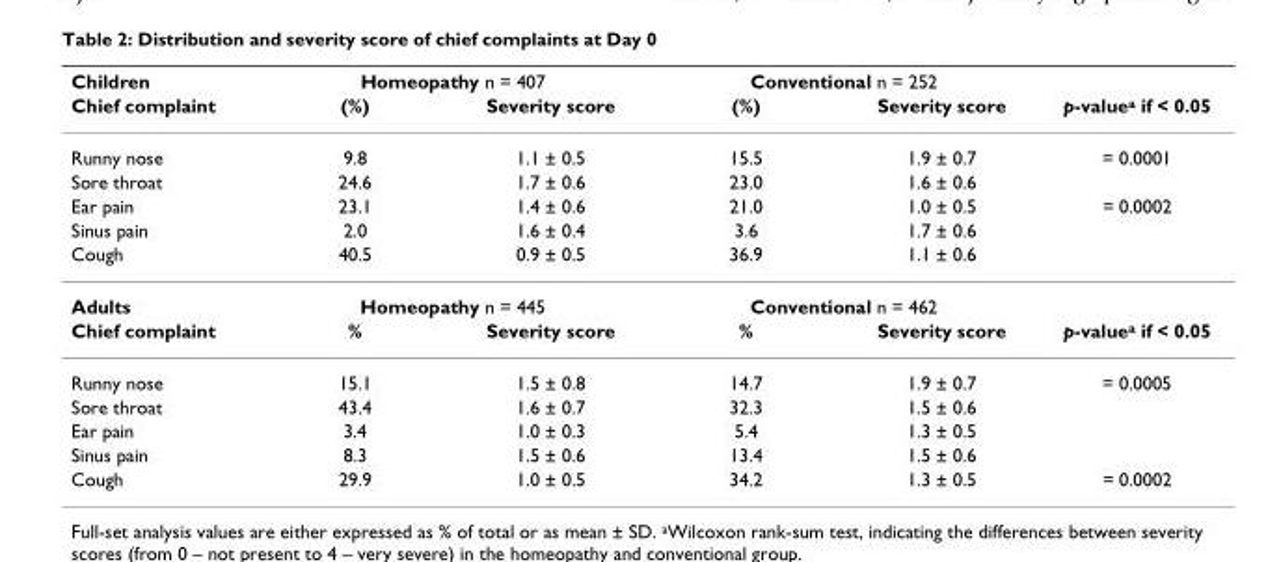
<table><thead><tr><td rowspan="2">Children Chief complaint</td><td colspan="2">Homeopathy n = 407</td><td colspan="2">Conventional n = 252</td><td rowspan="2">p-value<sup>a</sup> if &lt; 0.05</td></tr><tr><td>(%)</td><td>Severity score</td><td>(%)</td><td>Severity score</td></tr></thead><tbody><tr><td>Runny nose</td><td>9.8</td><td>1.1 ± 0.5</td><td>15.5</td><td>1.9 ± 0.7</td><td>= 0.0001</td></tr><tr><td>Sore throat</td><td>24.6</td><td>1.7 ± 0.6</td><td>23.0</td><td>1.6 ± 0.6</td><td></td></tr><tr><td>Ear pain</td><td>23.1</td><td>1.4 ± 0.6</td><td>21.0</td><td>1.0 ± 0.5</td><td>= 0.0002</td></tr><tr><td>Sinus pain</td><td>2.0</td><td>1.6 ± 0.4</td><td>3.6</td><td>1.7 ± 0.6</td><td></td></tr><tr><td>Cough</td><td>40.5</td><td>0.9 ± 0.5</td><td>36.9</td><td>1.1 ± 0.6</td><td></td></tr><tr><td>Adults</td><td colspan="2">Homeopathy n = 445</td><td colspan="2">Conventional n = 462</td><td></td></tr><tr><td>Chief complaint</td><td>%</td><td>Severity score</td><td>%</td><td>Severity score</td><td>p-value<sup>a</sup> if &lt; 0.05</td></tr><tr><td>Runny nose</td><td>15.1</td><td>1.5 ± 0.8</td><td>14.7</td><td>1.9 ± 0.7</td><td>= 0.0005</td></tr><tr><td>Sore throat</td><td>43.4</td><td>1.6 ± 0.7</td><td>32.3</td><td>1.5 ± 0.6</td><td></td></tr><tr><td>Ear pain</td><td>3.4</td><td>1.0 ± 0.3</td><td>5.4</td><td>1.3 ± 0.5</td><td></td></tr><tr><td>Sinus pain</td><td>8.3</td><td>1.5 ± 0.6</td><td>13.4</td><td>1.5 ± 0.6</td><td></td></tr><tr><td>Cough</td><td>29.9</td><td>1.0 ± 0.5</td><td>34.2</td><td>1.3 ± 0.5</td><td>= 0.0002</td></tr></tbody></table>